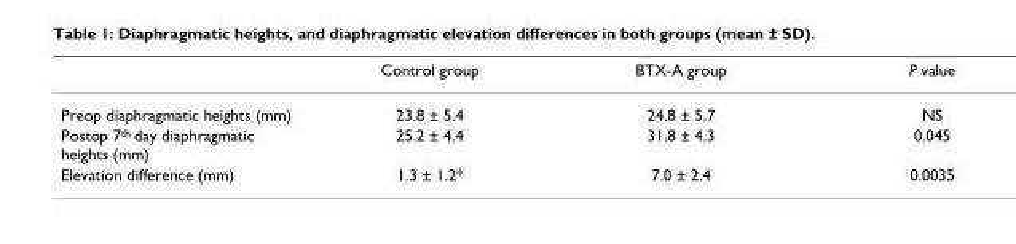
<table><thead><tr><td></td><td>Control group</td><td>BTX-A group</td><td>P value</td></tr></thead><tbody><tr><td>Preop diaphragmatic heights (mm)</td><td>23.8 ± 5.4</td><td>24.8 ± 5.7</td><td>NS</td></tr><tr><td>Postop 7<sup>th</sup> day diaphragmatic heights (mm)</td><td>25.2 ± 4.4</td><td>31.8 ± 4.3</td><td>0.045</td></tr><tr><td>Elevation difference (mm)</td><td>1.3 ± 1.2*</td><td>7.0 ± 2.4</td><td>0.0035</td></tr></tbody></table>